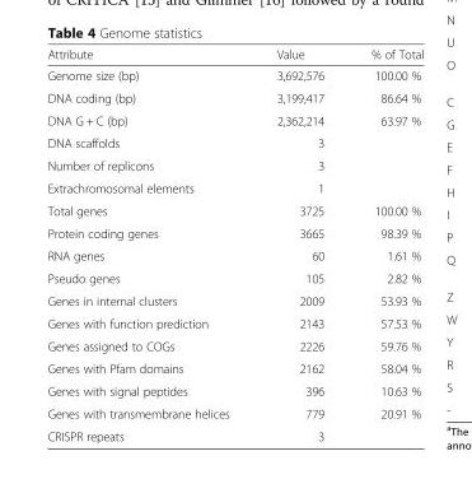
<table><thead><tr><td>Attribute</td><td>Value</td><td>% of Total</td></tr></thead><tbody><tr><td>Genome size (bp)</td><td>3,692,576</td><td>100.00 %</td></tr><tr><td>DNA coding (bp)</td><td>3,199,417</td><td>86.64 %</td></tr><tr><td>DNA G + C (bp)</td><td>2,362,214</td><td>63.97 %</td></tr><tr><td>DNA scaffolds</td><td>3</td><td></td></tr><tr><td>Number of replicons</td><td>3</td><td></td></tr><tr><td>Extrachromosomal elements</td><td>1</td><td></td></tr><tr><td>Total genes</td><td>3725</td><td>100.00 %</td></tr><tr><td>Protein coding genes</td><td>3665</td><td>98.39 %</td></tr><tr><td>RNA genes</td><td>60</td><td>1.61 %</td></tr><tr><td>Pseudo genes</td><td>105</td><td>2.82 %</td></tr><tr><td>Genes in internal clusters</td><td>2009</td><td>53.93 %</td></tr><tr><td>Genes with function prediction</td><td>2143</td><td>57.53 %</td></tr><tr><td>Genes assigned to COGs</td><td>2226</td><td>59.76 %</td></tr><tr><td>Genes with Pfam domains</td><td>2162</td><td>58.04 %</td></tr><tr><td>Genes with signal peptides</td><td>396</td><td>10.63 %</td></tr><tr><td>Genes with transmembrane helices</td><td>779</td><td>20.91 %</td></tr><tr><td>CRISPR repeats</td><td>3</td><td></td></tr></tbody></table>